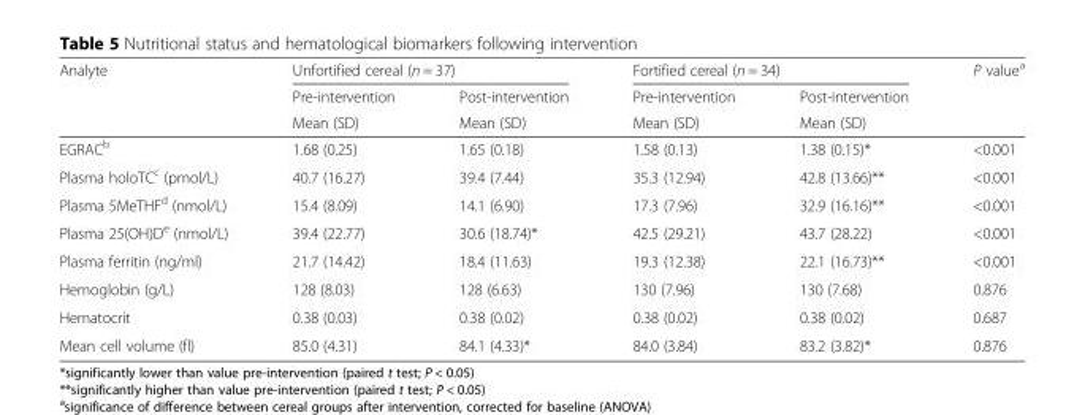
<table><thead><tr><td rowspan="3">Analyte</td><td colspan="2">Unfortified cereal (n = 37)</td><td colspan="2">Fortified cereal (n = 34)</td><td rowspan="3">P value<sup>a</sup></td></tr><tr><td rowspan="2">Pre-intervention Mean (SD)</td><td rowspan="2">Post-intervention Mean (SD)</td><td rowspan="2">Pre-intervention Mean (SD)</td><td rowspan="2">Post-intervention Mean (SD)</td></tr><tr></tr></thead><tbody><tr><td>EGRAC<sup>b</sup></td><td>1.68 (0.25)</td><td>1.65 (0.18)</td><td>1.58 (0.13)</td><td>1.38 (0.15)*</td><td>&lt;0.001</td></tr><tr><td>Plasma holoTC<sup>c</sup> (pmol/L)</td><td>40.7 (16.27)</td><td>39.4 (7.44)</td><td>35.3 (12.94)</td><td>42.8 (13.66)**</td><td>&lt;0.001</td></tr><tr><td>Plasma 5MeTHF<sup>d</sup> (nmol/L)</td><td>15.4 (8.09)</td><td>14.1 (6.90)</td><td>17.3 (7.96)</td><td>32.9 (16.16)**</td><td>&lt;0.001</td></tr><tr><td>Plasma 25(OH)D<sup>e</sup> (nmol/L)</td><td>39.4 (22.77)</td><td>30.6 (18.74)*</td><td>42.5 (29.21)</td><td>43.7 (28.22)</td><td>&lt;0.001</td></tr><tr><td>Plasma ferritin (ng/ml)</td><td>21.7 (14.42)</td><td>18.4 (11.63)</td><td>19.3 (12.38)</td><td>22.1 (16.73)**</td><td>&lt;0.001</td></tr><tr><td>Hemoglobin (g/L)</td><td>128 (8.03)</td><td>128 (6.63)</td><td>130 (7.96)</td><td>130 (7.68)</td><td>0.876</td></tr><tr><td>Hematocrit</td><td>0.38 (0.03)</td><td>0.38 (0.02)</td><td>0.38 (0.02)</td><td>0.38 (0.02)</td><td>0.687</td></tr><tr><td>Mean cell volume (fl)</td><td>85.0 (4.31)</td><td>84.1 (4.33)*</td><td>84.0 (3.84)</td><td>83.2 (3.82)*</td><td>0.876</td></tr></tbody></table>